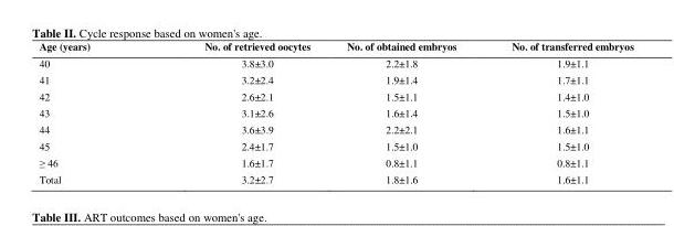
<table><thead><tr><td>Age (years)</td><td>No. of retrieved oocytes</td><td>No. of obtained embryos</td><td>No. of transferred embryos</td></tr></thead><tbody><tr><td>40</td><td>3.8±3.0</td><td>2.2±1.8</td><td>1.9±1.1</td></tr><tr><td>41</td><td>3.2±2.4</td><td>1.9±1.4</td><td>1.7±1.1</td></tr><tr><td>42</td><td>2.6±2.1</td><td>1.5±1.1</td><td>1.4±1.0</td></tr><tr><td>43</td><td>3.1±2.6</td><td>1.6±1.4</td><td>1.5±1.0</td></tr><tr><td>44</td><td>3.6±3.9</td><td>2.2±2.1</td><td>1.6±1.1</td></tr><tr><td>45</td><td>2.4±1.7</td><td>1.5±1.0</td><td>1.5±1.0</td></tr><tr><td>≥ 46</td><td>1.6±1.7</td><td>0.8±1.1</td><td>0.8±1.1</td></tr><tr><td>Total</td><td>3.2±2.7</td><td>1.8±1.6</td><td>1.6±1.1</td></tr></tbody></table>